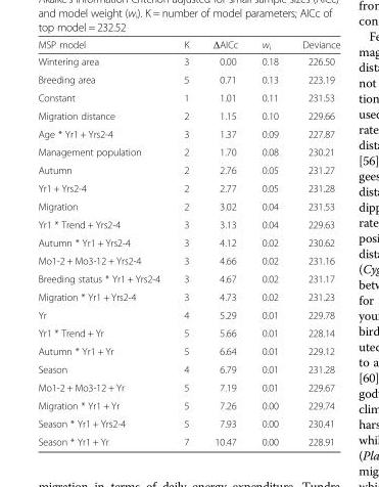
<table><thead><tr><td>MSP model</td><td>K</td><td>ΔAICc</td><td>w<sub>i</sub></td><td>Deviance</td></tr></thead><tbody><tr><td>Wintering area</td><td>3</td><td>0.00</td><td>0.18</td><td>226.50</td></tr><tr><td>Breeding area</td><td>5</td><td>0.71</td><td>0.13</td><td>223.19</td></tr><tr><td>Constant</td><td>1</td><td>1.01</td><td>0.11</td><td>231.53</td></tr><tr><td>Migration distance</td><td>2</td><td>1.15</td><td>0.10</td><td>229.66</td></tr><tr><td>Age * Yr1 + Yrs2-4</td><td>3</td><td>1.37</td><td>0.09</td><td>227.87</td></tr><tr><td>Management population</td><td>2</td><td>1.70</td><td>0.08</td><td>230.21</td></tr><tr><td>Autumn</td><td>2</td><td>2.76</td><td>0.05</td><td>231.27</td></tr><tr><td>Yr1 + Yrs2-4</td><td>2</td><td>2.77</td><td>0.05</td><td>231.28</td></tr><tr><td>Migration</td><td>2</td><td>3.02</td><td>0.04</td><td>231.53</td></tr><tr><td>Yr1 * Trend + Yrs2-4</td><td>3</td><td>3.13</td><td>0.04</td><td>229.63</td></tr><tr><td>Autumn * Yr1 + Yrs2-4</td><td>3</td><td>4.12</td><td>0.02</td><td>230.62</td></tr><tr><td>Mo1-2 + Mo3-12 + Yrs2-4</td><td>3</td><td>4.66</td><td>0.02</td><td>231.16</td></tr><tr><td>Breeding status * Yr1 + Yrs2-4</td><td>3</td><td>4.67</td><td>0.02</td><td>231.17</td></tr><tr><td>Migration * Yr1 + Yrs2-4</td><td>3</td><td>4.73</td><td>0.02</td><td>231.23</td></tr><tr><td>Yr</td><td>4</td><td>5.29</td><td>0.01</td><td>229.78</td></tr><tr><td>Yr1 * Trend + Yr</td><td>5</td><td>5.66</td><td>0.01</td><td>228.14</td></tr><tr><td>Autumn * Yr1 + Yr</td><td>5</td><td>6.64</td><td>0.01</td><td>229.12</td></tr><tr><td>Season</td><td>4</td><td>6.79</td><td>0.01</td><td>231.28</td></tr><tr><td>Mo1-2 + Mo3-12 + Yr</td><td>5</td><td>7.19</td><td>0.01</td><td>229.67</td></tr><tr><td>Migration * Yr1 + Yr</td><td>5</td><td>7.26</td><td>0.00</td><td>229.74</td></tr><tr><td>Season * Yr1 + Yrs2-4</td><td>5</td><td>7.93</td><td>0.00</td><td>230.41</td></tr><tr><td>Season * Yr1 + Yr</td><td>7</td><td>10.47</td><td>0.00</td><td>228.91</td></tr></tbody></table>